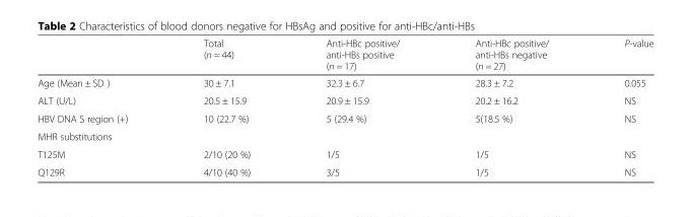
<table><thead><tr><td></td><td>Total (n = 44)</td><td>Anti-HBc positive/ anti-HBs positive (n = 17)</td><td>Anti-HBc positive/ anti-HBs negative (n = 27)</td><td>P-value</td></tr></thead><tbody><tr><td>Age (Mean ± SD )</td><td>30 ± 7.1</td><td>32.3 ± 6.7</td><td>28.3 ± 7.2</td><td>0.055</td></tr><tr><td>ALT (U/L)</td><td>20.5 ± 15.9</td><td>20.9 ± 15.9</td><td>20.2 ± 16.2</td><td>NS</td></tr><tr><td>HBV DNA S region (+)</td><td>10 (22.7 %)</td><td>5 (29.4 %)</td><td>5(18.5 %)</td><td>NS</td></tr><tr><td colspan="5">MHR substitutions</td></tr><tr><td>T125M</td><td>2/10 (20 %)</td><td>1/5</td><td>1/5</td><td>NS</td></tr><tr><td>Q129R</td><td>4/10 (40 %)</td><td>3/5</td><td>1/5</td><td>NS</td></tr></tbody></table>